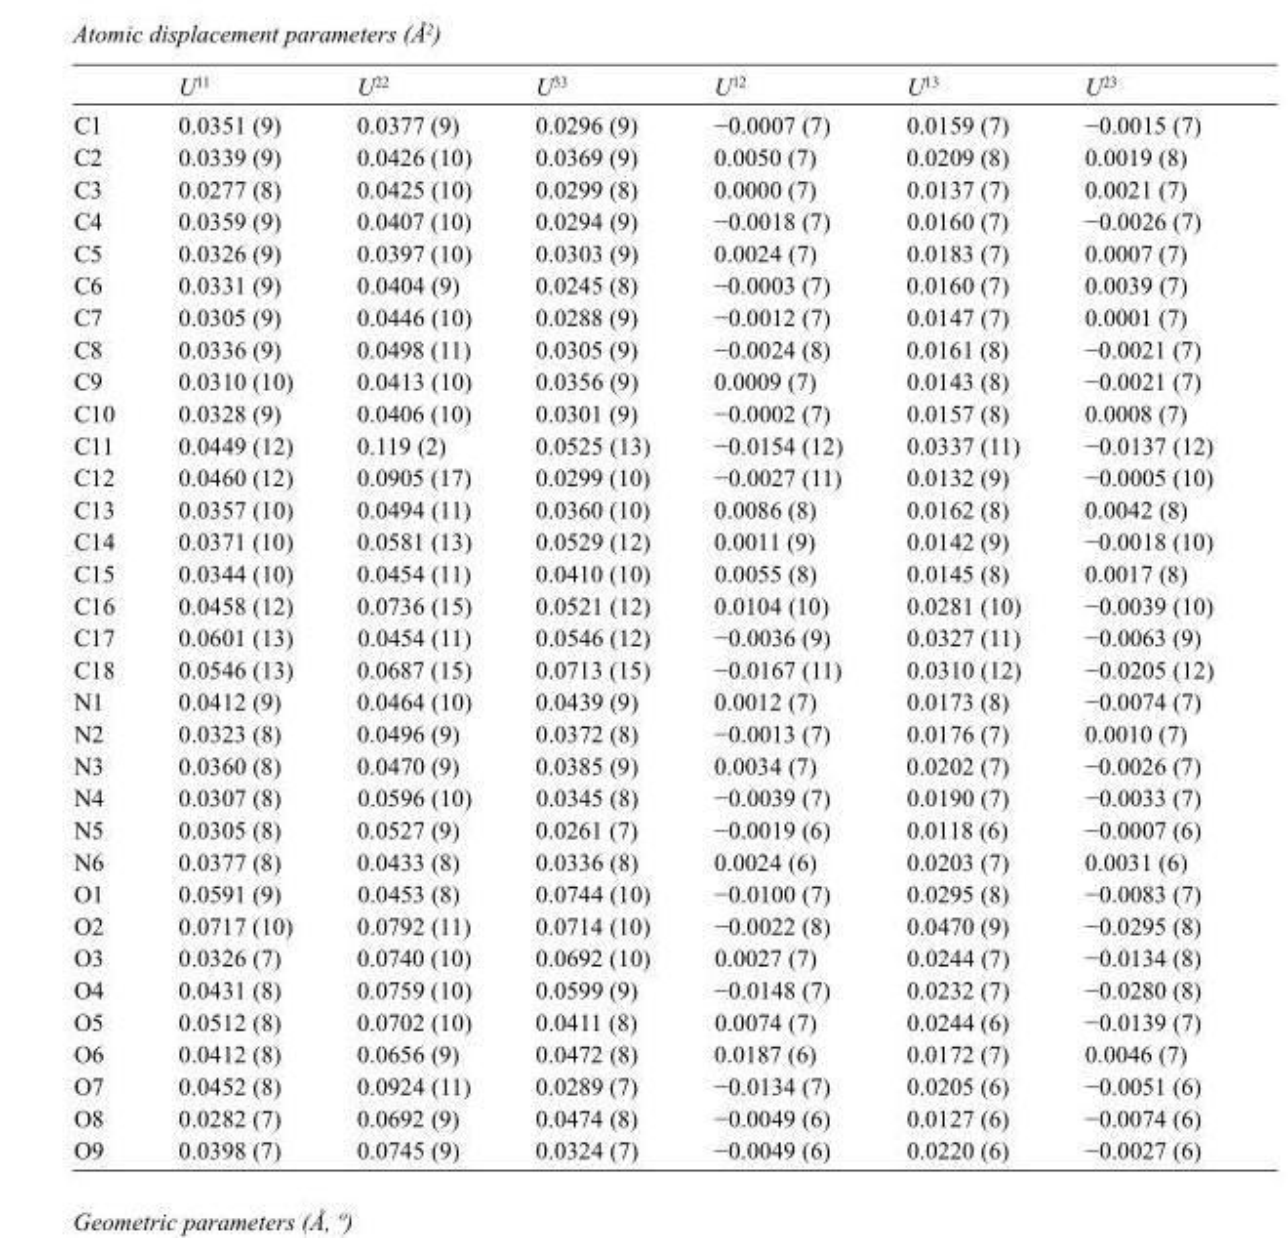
<table><thead><tr><td></td><td>U<sup>11</sup></td><td>U<sup>22</sup></td><td>U<sup>33</sup></td><td>U<sup>12</sup></td><td>U<sup>13</sup></td><td>U<sup>23</sup></td></tr></thead><tbody><tr><td>C1</td><td>0.0351 (9)</td><td>0.0377 (9)</td><td>0.0296 (9)</td><td>−0.0007 (7)</td><td>0.0159 (7)</td><td>−0.0015 (7)</td></tr><tr><td>C2</td><td>0.0339 (9)</td><td>0.0426 (10)</td><td>0.0369 (9)</td><td>0.0050 (7)</td><td>0.0209 (8)</td><td>0.0019 (8)</td></tr><tr><td>C3</td><td>0.0277 (8)</td><td>0.0425 (10)</td><td>0.0299 (8)</td><td>0.0000 (7)</td><td>0.0137 (7)</td><td>0.0021 (7)</td></tr><tr><td>C4</td><td>0.0359 (9)</td><td>0.0407 (10)</td><td>0.0294 (9)</td><td>−0.0018 (7)</td><td>0.0160 (7)</td><td>−0.0026 (7)</td></tr><tr><td>C5</td><td>0.0326 (9)</td><td>0.0397 (10)</td><td>0.0303 (9)</td><td>0.0024 (7)</td><td>0.0183 (7)</td><td>0.0007 (7)</td></tr><tr><td>C6</td><td>0.0331 (9)</td><td>0.0404 (9)</td><td>0.0245 (8)</td><td>−0.0003 (7)</td><td>0.0160 (7)</td><td>0.0039 (7)</td></tr><tr><td>C7</td><td>0.0305 (9)</td><td>0.0446 (10)</td><td>0.0288 (9)</td><td>−0.0012 (7)</td><td>0.0147 (7)</td><td>0.0001 (7)</td></tr><tr><td>C8</td><td>0.0336 (9)</td><td>0.0498 (11)</td><td>0.0305 (9)</td><td>−0.0024 (8)</td><td>0.0161 (8)</td><td>−0.0021 (7)</td></tr><tr><td>C9</td><td>0.0310 (10)</td><td>0.0413 (10)</td><td>0.0356 (9)</td><td>0.0009 (7)</td><td>0.0143 (8)</td><td>−0.0021 (7)</td></tr><tr><td>C10</td><td>0.0328 (9)</td><td>0.0406 (10)</td><td>0.0301 (9)</td><td>−0.0002 (7)</td><td>0.0157 (8)</td><td>0.0008 (7)</td></tr><tr><td>C11</td><td>0.0449 (12)</td><td>0.119 (2)</td><td>0.0525 (13)</td><td>−0.0154 (12)</td><td>0.0337 (11)</td><td>−0.0137 (12)</td></tr><tr><td>C12</td><td>0.0460 (12)</td><td>0.0905 (17)</td><td>0.0299 (10)</td><td>−0.0027 (11)</td><td>0.0132 (9)</td><td>−0.0005 (10)</td></tr><tr><td>C13</td><td>0.0357 (10)</td><td>0.0494 (11)</td><td>0.0360 (10)</td><td>0.0086 (8)</td><td>0.0162 (8)</td><td>0.0042 (8)</td></tr><tr><td>C14</td><td>0.0371 (10)</td><td>0.0581 (13)</td><td>0.0529 (12)</td><td>0.0011 (9)</td><td>0.0142 (9)</td><td>−0.0018 (10)</td></tr><tr><td>C15</td><td>0.0344 (10)</td><td>0.0454 (11)</td><td>0.0410 (10)</td><td>0.0055 (8)</td><td>0.0145 (8)</td><td>0.0017 (8)</td></tr><tr><td>C16</td><td>0.0458 (12)</td><td>0.0736 (15)</td><td>0.0521 (12)</td><td>0.0104 (10)</td><td>0.0281 (10)</td><td>−0.0039 (10)</td></tr><tr><td>C17</td><td>0.0601 (13)</td><td>0.0454 (11)</td><td>0.0546 (12)</td><td>−0.0036 (9)</td><td>0.0327 (11)</td><td>−0.0063 (9)</td></tr><tr><td>C18</td><td>0.0546 (13)</td><td>0.0687 (15)</td><td>0.0713 (15)</td><td>−0.0167 (11)</td><td>0.0310 (12)</td><td>−0.0205 (12)</td></tr><tr><td>N1</td><td>0.0412 (9)</td><td>0.0464 (10)</td><td>0.0439 (9)</td><td>0.0012 (7)</td><td>0.0173 (8)</td><td>−0.0074 (7)</td></tr><tr><td>N2</td><td>0.0323 (8)</td><td>0.0496 (9)</td><td>0.0372 (8)</td><td>−0.0013 (7)</td><td>0.0176 (7)</td><td>0.0010 (7)</td></tr><tr><td>N3</td><td>0.0360 (8)</td><td>0.0470 (9)</td><td>0.0385 (9)</td><td>0.0034 (7)</td><td>0.0202 (7)</td><td>−0.0026 (7)</td></tr><tr><td>N4</td><td>0.0307 (8)</td><td>0.0596 (10)</td><td>0.0345 (8)</td><td>−0.0039 (7)</td><td>0.0190 (7)</td><td>−0.0033 (7)</td></tr><tr><td>N5</td><td>0.0305 (8)</td><td>0.0527 (9)</td><td>0.0261 (7)</td><td>−0.0019 (6)</td><td>0.0118 (6)</td><td>−0.0007 (6)</td></tr><tr><td>N6</td><td>0.0377 (8)</td><td>0.0433 (8)</td><td>0.0336 (8)</td><td>0.0024 (6)</td><td>0.0203 (7)</td><td>0.0031 (6)</td></tr><tr><td>O1</td><td>0.0591 (9)</td><td>0.0453 (8)</td><td>0.0744 (10)</td><td>−0.0100 (7)</td><td>0.0295 (8)</td><td>−0.0083 (7)</td></tr><tr><td>O2</td><td>0.0717 (10)</td><td>0.0792 (11)</td><td>0.0714 (10)</td><td>−0.0022 (8)</td><td>0.0470 (9)</td><td>−0.0295 (8)</td></tr><tr><td>O3</td><td>0.0326 (7)</td><td>0.0740 (10)</td><td>0.0692 (10)</td><td>0.0027 (7)</td><td>0.0244 (7)</td><td>−0.0134 (8)</td></tr><tr><td>O4</td><td>0.0431 (8)</td><td>0.0759 (10)</td><td>0.0599 (9)</td><td>−0.0148 (7)</td><td>0.0232 (7)</td><td>−0.0280 (8)</td></tr><tr><td>O5</td><td>0.0512 (8)</td><td>0.0702 (10)</td><td>0.0411 (8)</td><td>0.0074 (7)</td><td>0.0244 (6)</td><td>−0.0139 (7)</td></tr><tr><td>O6</td><td>0.0412 (8)</td><td>0.0656 (9)</td><td>0.0472 (8)</td><td>0.0187 (6)</td><td>0.0172 (7)</td><td>0.0046 (7)</td></tr><tr><td>O7</td><td>0.0452 (8)</td><td>0.0924 (11)</td><td>0.0289 (7)</td><td>−0.0134 (7)</td><td>0.0205 (6)</td><td>−0.0051 (6)</td></tr><tr><td>O8</td><td>0.0282 (7)</td><td>0.0692 (9)</td><td>0.0474 (8)</td><td>−0.0049 (6)</td><td>0.0127 (6)</td><td>−0.0074 (6)</td></tr><tr><td>O9</td><td>0.0398 (7)</td><td>0.0745 (9)</td><td>0.0324 (7)</td><td>−0.0049 (6)</td><td>0.0220 (6)</td><td>−0.0027 (6)</td></tr></tbody></table>